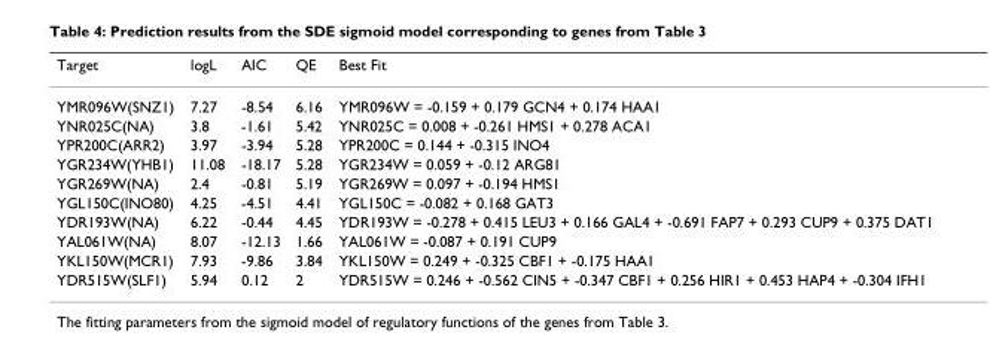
<table><thead><tr><td>Target</td><td>logL</td><td>AIC</td><td>QE</td><td>Best Fit</td></tr></thead><tbody><tr><td>YMR096W(SNZ1)</td><td>7.27</td><td>-8.54</td><td>6.16</td><td>YMR096W = -0.159 + 0.179 GCN4 + 0.174 HAA1</td></tr><tr><td>YNR025C(NA)</td><td>3.8</td><td>-1.61</td><td>5.42</td><td>YNR025C = 0.008 + -0.261 HMS1 + 0.278 ACA1</td></tr><tr><td>YPR200C(ARR2)</td><td>3.97</td><td>-3.94</td><td>5.28</td><td>YPR200C = 0.144 + -0.315 INO4</td></tr><tr><td>YGR234W(YHB1)</td><td>11.08</td><td>-18.17</td><td>5.28</td><td>YGR234W = 0.059 + -0.12 ARG81</td></tr><tr><td>YGR269W(NA)</td><td>2.4</td><td>-0.81</td><td>5.19</td><td>YGR269W = 0.097 + -0.194 HMS1</td></tr><tr><td>YGL150C(INO80)</td><td>4.25</td><td>-4.51</td><td>4.41</td><td>YGL150C = -0.082 + 0.168 GAT3</td></tr><tr><td>YDR193W(NA)</td><td>6.22</td><td>-0.44</td><td>4.45</td><td>YDR193W = -0.278 + 0.415 LEU3 + 0.166 GAL4 + -0.691 FAP7 + 0.293 CUP9 + 0.375 DAT1</td></tr><tr><td>YAL061W(NA)</td><td>8.07</td><td>-12.13</td><td>1.66</td><td>YAL061W = -0.087 + 0.191 CUP9</td></tr><tr><td>YKL150W(MCR1)</td><td>7.93</td><td>-9.86</td><td>3.84</td><td>YKL150W = 0.249 + -0.325 CBF1 + -0.175 HAA1</td></tr><tr><td>YDR515W(SLF1)</td><td>5.94</td><td>0.12</td><td>2</td><td>YDR515W = 0.246 + -0.562 CIN5 + -0.347 CBF1 + 0.256 HIR1 + 0.453 HAP4 + -0.304 IFH1</td></tr></tbody></table>